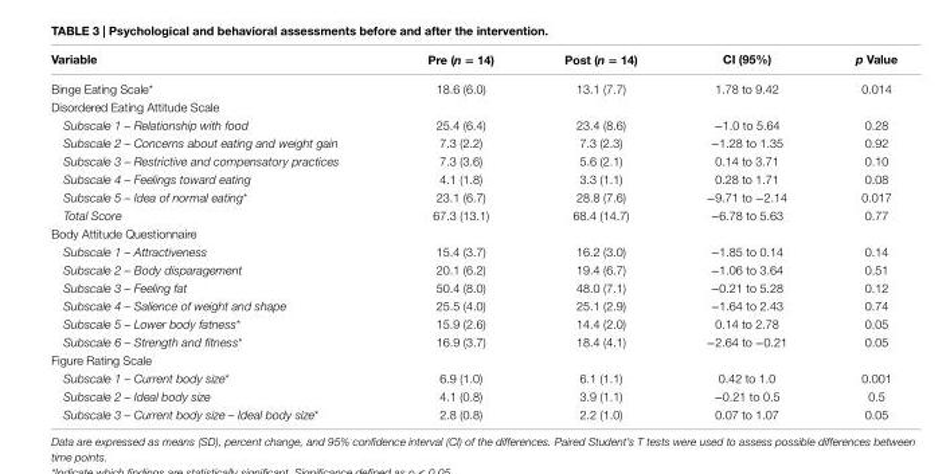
<table><thead><tr><td>Variable</td><td>Pre (n = 14)</td><td>Post (n = 14)</td><td>ci (95%)</td><td>p Value</td></tr></thead><tbody><tr><td>Binge Eating Scale*</td><td>18.6 (6.0)</td><td>13.1 (7.7)</td><td>1.78 to 9.42</td><td>0.014</td></tr><tr><td colspan="5">Disordered Eating Attitude Scale</td></tr><tr><td>Subscale 1 – Relationship with food</td><td>25.4 (6.4)</td><td>23.4 (8.6)</td><td>−1.0 to 5.64</td><td>0.28</td></tr><tr><td>Subscale 2 – Concerns about eating and weight gain</td><td>7.3 (2.2)</td><td>7.3 (2.3)</td><td>−1.28 to 1.35</td><td>0.92</td></tr><tr><td>Subscale 3 – Restrictive and compensatory practices</td><td>7.3 (3.6)</td><td>5.6 (2.1)</td><td>0.14 to 3.71</td><td>0.10</td></tr><tr><td>Subscale 4 – Feelings toward eating</td><td>4.1 (1.8)</td><td>3.3 (1.1)</td><td>0.28 to 1.71</td><td>0.08</td></tr><tr><td>Subscale 5 – Idea of normal eating*</td><td>23.1 (6.7)</td><td>28.8 (7.6)</td><td>−9.71 to −2.14</td><td>0.017</td></tr><tr><td>Total Score</td><td>67.3 (13.1)</td><td>68.4 (14.7)</td><td>−6.78 to 5.63</td><td>0.77</td></tr><tr><td colspan="5">Body Attitude Questionnaire</td></tr><tr><td>Subscale 1 – Attractiveness</td><td>15.4 (3.7)</td><td>16.2 (3.0)</td><td>−1.85 to 0.14</td><td>0.14</td></tr><tr><td>Subscale 2 – Body disparagement</td><td>20.1 (6.2)</td><td>19.4 (6.7)</td><td>−1.06 to 3.64</td><td>0.51</td></tr><tr><td>Subscale 3 – Feeling fat</td><td>50.4 (8.0)</td><td>48.0 (7.1)</td><td>−0.21 to 5.28</td><td>0.12</td></tr><tr><td>Subscale 4 – Salience of weight and shape</td><td>25.5 (4.0)</td><td>25.1 (2.9)</td><td>−1.64 to 2.43</td><td>0.74</td></tr><tr><td>Subscale 5 – Lower body fatness*</td><td>15.9 (2.6)</td><td>14.4 (2.0)</td><td>0.14 to 2.78</td><td>0.05</td></tr><tr><td>Subscale 6 – Strength and fitness*</td><td>16.9 (3.7)</td><td>18.4 (4.1)</td><td>−2.64 to −0.21</td><td>0.05</td></tr><tr><td colspan="5">Figure Rating Scale</td></tr><tr><td>Subscale 1 – Current body size*</td><td>6.9 (1.0)</td><td>6.1 (1.1)</td><td>0.42 to 1.0</td><td>0.001</td></tr><tr><td>Subscale 2 – Ideal body size</td><td>4.1 (0.8)</td><td>3.9 (1.1)</td><td>−0.21 to 0.5</td><td>0.5</td></tr><tr><td>Subscale 3 – Current body size – Ideal body size*</td><td>2.8 (0.8)</td><td>2.2 (1.0)</td><td>0.07 to 1.07</td><td>0.05</td></tr></tbody></table>